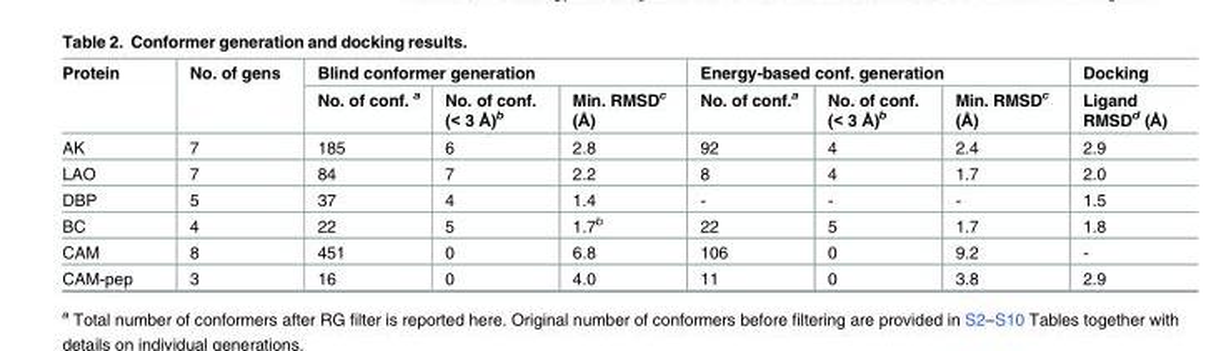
<table><thead><tr><td rowspan="2">Protein</td><td rowspan="2">No. of gens</td><td colspan="3">Blind conformer generation</td><td colspan="3">Energy-based conf. generation</td><td rowspan="2">Docking Ligand RMSD<sup>d</sup> (Å)</td></tr><tr><td>No. of conf. <sup>a</sup></td><td>No. of conf. (&lt; 3 Å)<sup>b</sup></td><td>Min. RMSD<sup>c</sup> (Å)</td><td>No. of conf.<sup>a</sup></td><td>No. of conf. (&lt; 3 Å)<sup>b</sup></td><td>Min. RMSD<sup>c</sup> (Å)</td></tr></thead><tbody><tr><td>AK</td><td>7</td><td>185</td><td>6</td><td>2.8</td><td>92</td><td>4</td><td>2.4</td><td>2.9</td></tr><tr><td>LAO</td><td>7</td><td>84</td><td>7</td><td>2.2</td><td>8</td><td>4</td><td>1.7</td><td>2.0</td></tr><tr><td>DBP</td><td>5</td><td>37</td><td>4</td><td>1.4</td><td>-</td><td>-</td><td>-</td><td>1.5</td></tr><tr><td>BC</td><td>4</td><td>22</td><td>5</td><td>1.7<sup>b</sup></td><td>22</td><td>5</td><td>1.7</td><td>1.8</td></tr><tr><td>CAM</td><td>8</td><td>451</td><td>0</td><td>6.8</td><td>106</td><td>0</td><td>9.2</td><td>-</td></tr><tr><td>CAM-pep</td><td>3</td><td>16</td><td>0</td><td>4.0</td><td>11</td><td>0</td><td>3.8</td><td>2.9</td></tr></tbody></table>